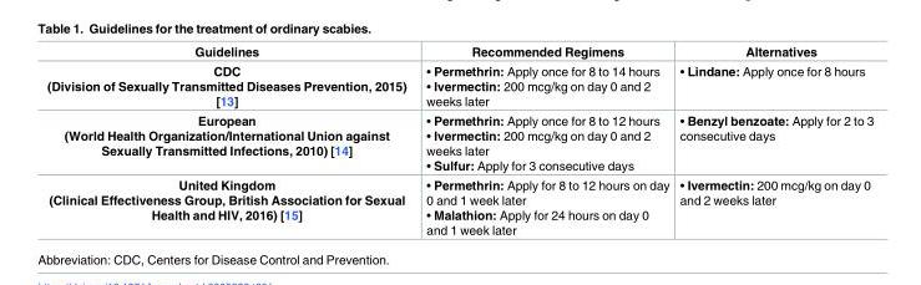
<table><thead><tr><td>Guidelines</td><td>Recommended Regimens</td><td>Alternatives</td></tr></thead><tbody><tr><td>CDC (Division of Sexually Transmitted Diseases Prevention, 2015) [13]</td><td>• Permethrin: Apply once for 8 to 14 hours • Ivermectin: 200 mcg/kg on day 0 and 2 weeks later</td><td>• Lindane: Apply once for 8 hours</td></tr><tr><td>European (World Health Organization/International Union against Sexually Transmitted Infections, 2010) [14]</td><td>• Permethrin: Apply once for 8 to 12 hours • Ivermectin: 200 mcg/kg on day 0 and 2 weeks later • Sulfur: Apply for 3 consecutive days</td><td>• Benzyl benzoate: Apply for 2 to 3 consecutive days</td></tr><tr><td>United Kingdom (Clinical Effectiveness Group, British Association for Sexual Health and HIV, 2016) [15]</td><td>• Permethrin: Apply for 8 to 12 hours on day 0 and 1 week later • Malathion: Apply for 24 hours on day 0 and 1 week later</td><td>• Ivermectin: 200 mcg/kg on day 0 and 2 weeks later</td></tr></tbody></table>